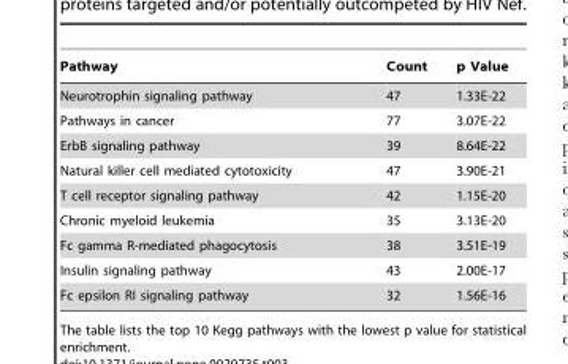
<table><thead><tr><td>Pathway</td><td>Count</td><td>p Value</td></tr></thead><tbody><tr><td>Neurotrophin signaling pathway</td><td>47</td><td>1.33E-22</td></tr><tr><td>Pathways in cancer</td><td>77</td><td>3.07E-22</td></tr><tr><td>ErbB signaling pathway</td><td>39</td><td>8.64E-22</td></tr><tr><td>Natural killer cell mediated cytotoxicity</td><td>47</td><td>3.90E-21</td></tr><tr><td>T cell receptor signaling pathway</td><td>42</td><td>1.15E-20</td></tr><tr><td>Chronic myeloid leukemia</td><td>35</td><td>3.13E-20</td></tr><tr><td>Fc gamma R-mediated phagocytosis</td><td>38</td><td>3.51E-19</td></tr><tr><td>Insulin signaling pathway</td><td>43</td><td>2.00E-17</td></tr><tr><td>Fc epsilon RI signaling pathway</td><td>32</td><td>1.56E-16</td></tr></tbody></table>